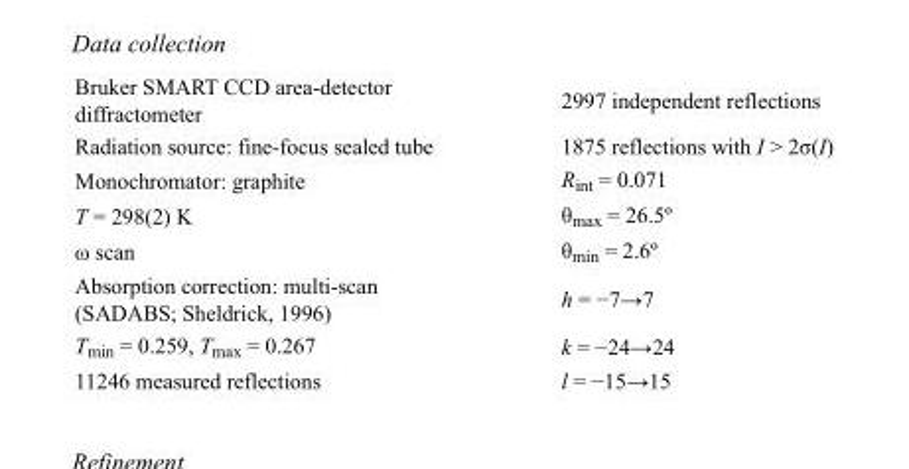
<table><tbody><tr><td>Bruker SMART CCD area-detector diffractometer</td><td>2997 independent reflections</td></tr><tr><td>Radiation source: fine-focus sealed tube</td><td>1875 reflections with I &gt; 2σ(I)</td></tr><tr><td>Monochromator: graphite</td><td>R<sub>int</sub> = 0.071</td></tr><tr><td>T = 298(2) K</td><td>θ<sub>max</sub> = 26.5º</td></tr><tr><td>ω scan</td><td>θ<sub>min</sub> = 2.6º</td></tr><tr><td>Absorption correction: multi-scan (SADABS; Sheldrick, 1996)</td><td>h = −7→7</td></tr><tr><td>T<sub>min</sub> = 0.259, T<sub>max</sub> = 0.267</td><td>k = −24→24</td></tr><tr><td>11246 measured reflections</td><td>l = −15→15</td></tr></tbody></table>